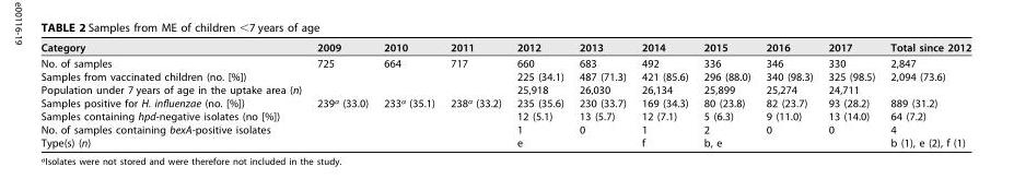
<table><thead><tr><td>Category</td><td>2009</td><td>2010</td><td>2011</td><td>2012</td><td>2013</td><td>2014</td><td>2015</td><td>2016</td><td>2017</td><td>Total since 2012</td></tr></thead><tbody><tr><td>No. of samples</td><td>725</td><td>664</td><td>717</td><td>660</td><td>683</td><td>492</td><td>336</td><td>346</td><td>330</td><td>2,847</td></tr><tr><td>Samples from vaccinated children (no. [%])</td><td></td><td></td><td></td><td>225 (34.1)</td><td>487 (71.3)</td><td>421 (85.6)</td><td>296 (88.0)</td><td>340 (98.3)</td><td>325 (98.5)</td><td>2,094 (73.6)</td></tr><tr><td>Population under 7 years of age in the uptake area (n)</td><td></td><td></td><td></td><td>25,918</td><td>26,030</td><td>26,134</td><td>25,899</td><td>25,274</td><td>24,711</td><td></td></tr><tr><td>Samples positive for H. influenzae (no. [%])</td><td>239<sup>a</sup> (33.0)</td><td>233<sup>a</sup> (35.1)</td><td>238<sup>a</sup> (33.2)</td><td>235 (35.6)</td><td>230 (33.7)</td><td>169 (34.3)</td><td>80 (23.8)</td><td>82 (23.7)</td><td>93 (28.2)</td><td>889 (31.2)</td></tr><tr><td>Samples containing hpd-negative isolates (no [%])</td><td></td><td></td><td></td><td>12 (5.1)</td><td>13 (5.7)</td><td>12 (7.1)</td><td>5 (6.3)</td><td>9 (11.0)</td><td>13 (14.0)</td><td>64 (7.2)</td></tr><tr><td>No. of samples containing bexA-positive isolates</td><td></td><td></td><td></td><td>1</td><td>0</td><td>1</td><td>2</td><td>0</td><td>0</td><td>4</td></tr><tr><td>Type(s) (n)</td><td></td><td></td><td></td><td>e</td><td></td><td>f</td><td>b, e</td><td></td><td></td><td>b (1), e (2), f (1)</td></tr></tbody></table>